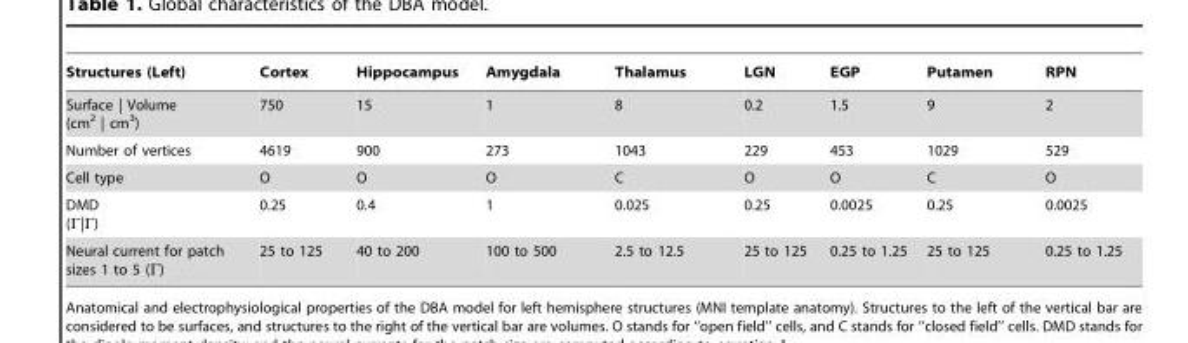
<table><thead><tr><td>Structures (Left)</td><td>Cortex</td><td>Hippocampus</td><td>Amygdala</td><td>Thalamus</td><td>LGN</td><td>EGP</td><td>Putamen</td><td>RPN</td></tr></thead><tbody><tr><td>Surface | Volume (cm<sup>2</sup> | cm<sup>3</sup>)</td><td>750</td><td>15</td><td>1</td><td>8</td><td>0.2</td><td>1.5</td><td>9</td><td>2</td></tr><tr><td>Number of vertices</td><td>4619</td><td>900</td><td>273</td><td>1043</td><td>229</td><td>453</td><td>1029</td><td>529</td></tr><tr><td>Cell type</td><td>O</td><td>O</td><td>O</td><td>C</td><td>O</td><td>O</td><td>C</td><td>O</td></tr><tr><td>DMD (C|C)</td><td>0.25</td><td>0.4</td><td>1</td><td>0.025</td><td>0.25</td><td>0.0025</td><td>0.25</td><td>0.0025</td></tr><tr><td>Neural current for patch sizes 1 to 5 (C)</td><td>25 to 125</td><td>40 to 200</td><td>100 to 500</td><td>2.5 to 12.5</td><td>25 to 125</td><td>0.25 to 1.25</td><td>25 to 125</td><td>0.25 to 1.25</td></tr></tbody></table>